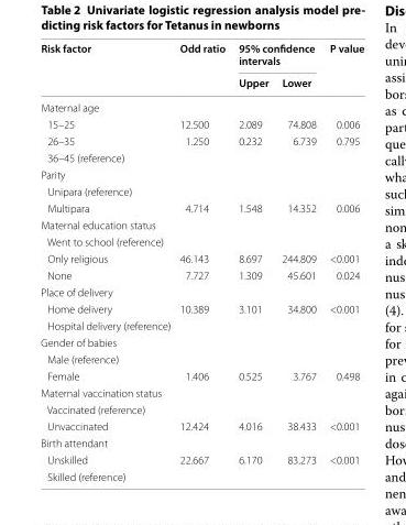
<table><thead><tr><td rowspan="2">Risk factor</td><td rowspan="2">Odd ratio</td><td colspan="2">95% confidence intervals</td><td rowspan="2">P value</td></tr><tr><td>Upper</td><td>Lower</td></tr></thead><tbody><tr><td colspan="5">Maternal age</td></tr><tr><td>15–25</td><td>12.500</td><td>2.089</td><td>74.808</td><td>0.006</td></tr><tr><td>26–35</td><td>1.250</td><td>0.232</td><td>6.739</td><td>0.795</td></tr><tr><td colspan="5">36–45 (reference)</td></tr><tr><td colspan="5">Parity</td></tr><tr><td colspan="5">Unipara (reference)</td></tr><tr><td>Multipara</td><td>4.714</td><td>1.548</td><td>14.352</td><td>0.006</td></tr><tr><td colspan="5">Maternal education status</td></tr><tr><td colspan="5">Went to school (reference)</td></tr><tr><td>Only religious</td><td>46.143</td><td>8.697</td><td>244.809</td><td>&lt;0.001</td></tr><tr><td>None</td><td>7.727</td><td>1.309</td><td>45.601</td><td>0.024</td></tr><tr><td colspan="5">Place of delivery</td></tr><tr><td>Home delivery</td><td>10.389</td><td>3.101</td><td>34.800</td><td>&lt;0.001</td></tr><tr><td colspan="5">Hospital delivery (reference)</td></tr><tr><td colspan="5">Gender of babies</td></tr><tr><td colspan="5">Male (reference)</td></tr><tr><td>Female</td><td>1.406</td><td>0.525</td><td>3.767</td><td>0.498</td></tr><tr><td colspan="5">Maternal vaccination status</td></tr><tr><td colspan="5">Vaccinated (reference)</td></tr><tr><td>Unvaccinated</td><td>12.424</td><td>4.016</td><td>38.433</td><td>&lt;0.001</td></tr><tr><td colspan="5">Birth attendant</td></tr><tr><td>Unskilled</td><td>22.667</td><td>6.170</td><td>83.273</td><td>&lt;0.001</td></tr><tr><td>Skilled (reference)</td><td></td><td></td><td></td><td></td></tr></tbody></table>